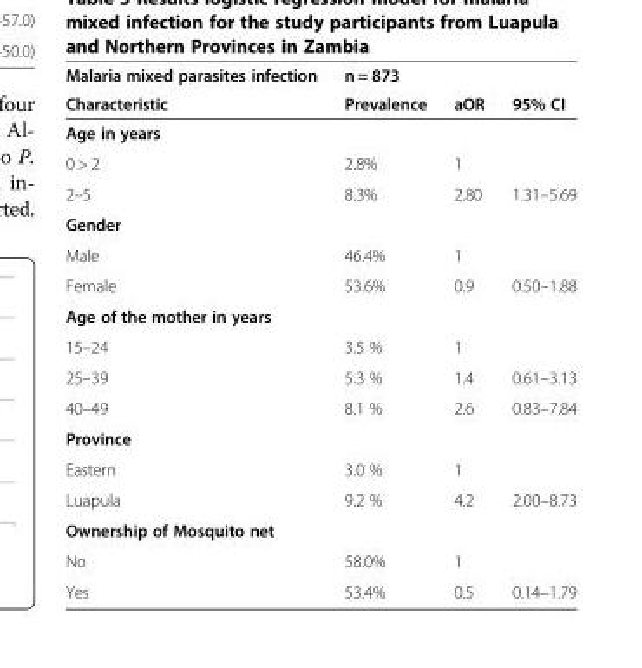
<table><thead><tr><td rowspan="2">Malaria mixed parasites infection Characteristic</td><td rowspan="2">n = 873 Prevalence</td><td rowspan="2">aOR</td><td rowspan="2">95% CI</td></tr><tr></tr></thead><tbody><tr><td colspan="4">Age in years</td></tr><tr><td>0 &gt; 2</td><td>2.8%</td><td>1</td><td></td></tr><tr><td>2–5</td><td>8.3%</td><td>2.80</td><td>1.31–5.69</td></tr><tr><td colspan="4">Gender</td></tr><tr><td>Male</td><td>46.4%</td><td>1</td><td></td></tr><tr><td>Female</td><td>53.6%</td><td>0.9</td><td>0.50–1.88</td></tr><tr><td colspan="4">Age of the mother in years</td></tr><tr><td>15–24</td><td>3.5 %</td><td>1</td><td></td></tr><tr><td>25–39</td><td>5.3 %</td><td>1.4</td><td>0.61–3.13</td></tr><tr><td>40–49</td><td>8.1 %</td><td>2.6</td><td>0.83–7.84</td></tr><tr><td colspan="4">Province</td></tr><tr><td>Eastern</td><td>3.0 %</td><td>1</td><td></td></tr><tr><td>Luapula</td><td>9.2 %</td><td>4.2</td><td>2.00–8.73</td></tr><tr><td colspan="4">Ownership of Mosquito net</td></tr><tr><td>No</td><td>58.0%</td><td>1</td><td></td></tr><tr><td>Yes</td><td>53.4%</td><td>0.5</td><td>0.14–1.79</td></tr></tbody></table>